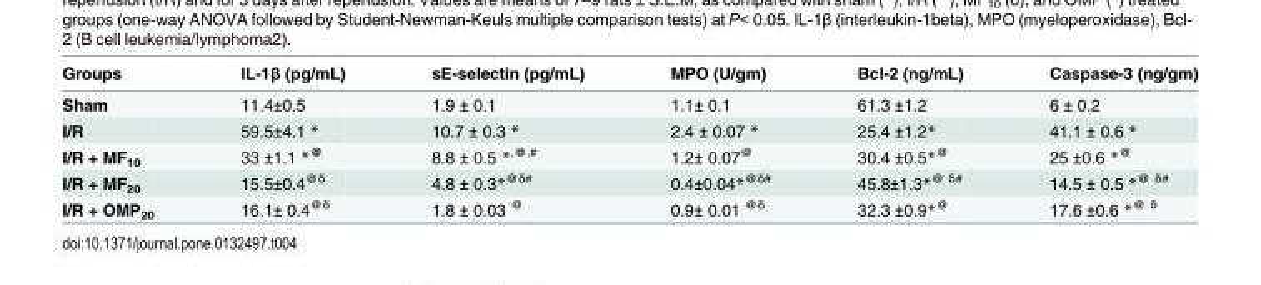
<table><thead><tr><td>Groups</td><td>IL-1β (pg/mL)</td><td>sE-selectin (pg/mL)</td><td>MPO (U/gm)</td><td>Bcl-2 (ng/mL)</td><td>Caspase-3 (ng/gm)</td></tr></thead><tbody><tr><td>Sham</td><td>11.4±0.5</td><td>1.9 ± 0.1</td><td>1.1± 0.1</td><td>61.3 ±1.2</td><td>6 ± 0.2</td></tr><tr><td>I/R</td><td>59.5±4.1 *</td><td>10.7 ± 0.3 *</td><td>2.4 ± 0.07 *</td><td>25.4 ±1.2*</td><td>41.1 ± 0.6 *</td></tr><tr><td>I/R + MF<sub>10</sub></td><td>33 ±1.1 *<sup>@</sup></td><td>8.8 ± 0.5 *<sup>,@,#</sup></td><td>1.2± 0.07<sup>@</sup></td><td>30.4 ±0.5*<sup>@</sup></td><td>25 ±0.6 *<sup>@</sup></td></tr><tr><td>I/R + MF<sub>20</sub></td><td>15.5±0.4<sup>@δ</sup></td><td>4.8 ± 0.3*<sup>@δ#</sup></td><td>0.4±0.04*<sup>@δ#</sup></td><td>45.8±1.3*<sup>@ δ#</sup></td><td>14.5 ± 0.5 *<sup>@ δ#</sup></td></tr><tr><td>I/R + OMP<sub>20</sub></td><td>16.1± 0.4<sup>@δ</sup></td><td>1.8 ± 0.03 <sup>@</sup></td><td>0.9± 0.01 <sup>@δ</sup></td><td>32.3 ±0.9*<sup>@</sup></td><td>17.6 ±0.6 *<sup>@ δ</sup></td></tr></tbody></table>